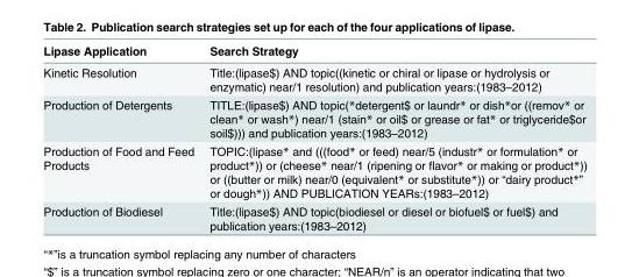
<table><thead><tr><td>Lipase Application</td><td>Search Strategy</td></tr></thead><tbody><tr><td>Kinetic Resolution</td><td>Title:(lipase$) AND topic((kinetic or chiral or lipase or hydrolysis or enzymatic) near/1 resolution) and publication years:(1983–2012)</td></tr><tr><td>Production of Detergents</td><td>TITLE:(lipase$) AND topic(*detergent$ or laundr* or dish*or ((remov* or clean* or wash*) near/1 (stain* or oil$ or grease or fat* or triglyceride$or soil$))) and publication years:(1983–2012)</td></tr><tr><td>Production of Food and Feed Products</td><td>TOPIC:(lipase* and (((food* or feed) near/5 (industr* or formulation* or product*)) or (cheese* near/1 (ripening or flavor* or making or product*)) or ((butter or milk) near/0 (equivalent* or substitute*)) or “dairy product*” or dough*)) AND PUBLICATION YEARs:(1983–2012)</td></tr><tr><td>Production of Biodiesel</td><td>Title:(lipase$) AND topic(biodiesel or diesel or biofuel$ or fuel$) and publication years:(1983–2012)</td></tr></tbody></table>